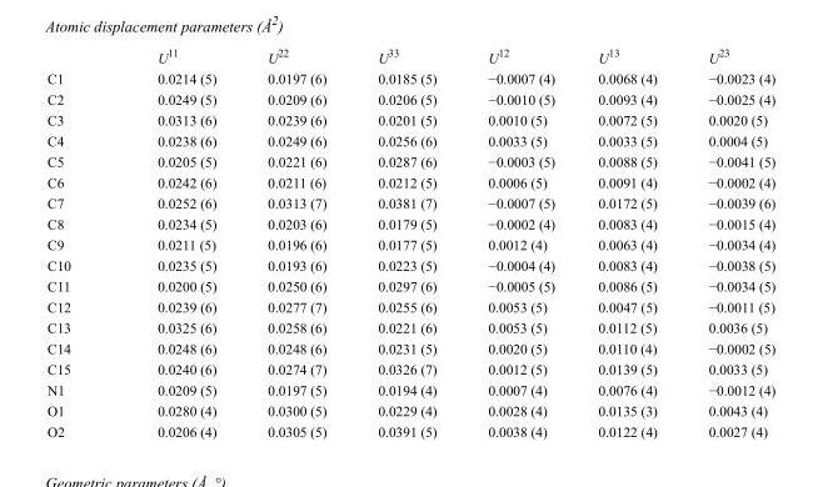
<table><thead><tr><td></td><td>U<sup>11</sup></td><td>U<sup>22</sup></td><td>U<sup>33</sup></td><td>U<sup>12</sup></td><td>U<sup>13</sup></td><td>U<sup>23</sup></td></tr></thead><tbody><tr><td>C1</td><td>0.0214 (5)</td><td>0.0197 (6)</td><td>0.0185 (5)</td><td>−0.0007 (4)</td><td>0.0068 (4)</td><td>−0.0023 (4)</td></tr><tr><td>C2</td><td>0.0249 (5)</td><td>0.0209 (6)</td><td>0.0206 (5)</td><td>−0.0010 (5)</td><td>0.0093 (4)</td><td>−0.0025 (4)</td></tr><tr><td>C3</td><td>0.0313 (6)</td><td>0.0239 (6)</td><td>0.0201 (5)</td><td>0.0010 (5)</td><td>0.0072 (5)</td><td>0.0020 (5)</td></tr><tr><td>C4</td><td>0.0238 (6)</td><td>0.0249 (6)</td><td>0.0256 (6)</td><td>0.0033 (5)</td><td>0.0033 (5)</td><td>0.0004 (5)</td></tr><tr><td>C5</td><td>0.0205 (5)</td><td>0.0221 (6)</td><td>0.0287 (6)</td><td>−0.0003 (5)</td><td>0.0088 (5)</td><td>−0.0041 (5)</td></tr><tr><td>C6</td><td>0.0242 (6)</td><td>0.0211 (6)</td><td>0.0212 (5)</td><td>0.0006 (5)</td><td>0.0091 (4)</td><td>−0.0002 (4)</td></tr><tr><td>C7</td><td>0.0252 (6)</td><td>0.0313 (7)</td><td>0.0381 (7)</td><td>−0.0007 (5)</td><td>0.0172 (5)</td><td>−0.0039 (6)</td></tr><tr><td>C8</td><td>0.0234 (5)</td><td>0.0203 (6)</td><td>0.0179 (5)</td><td>−0.0002 (4)</td><td>0.0083 (4)</td><td>−0.0015 (4)</td></tr><tr><td>C9</td><td>0.0211 (5)</td><td>0.0196 (6)</td><td>0.0177 (5)</td><td>0.0012 (4)</td><td>0.0063 (4)</td><td>−0.0034 (4)</td></tr><tr><td>C10</td><td>0.0235 (5)</td><td>0.0193 (6)</td><td>0.0223 (5)</td><td>−0.0004 (4)</td><td>0.0083 (4)</td><td>−0.0038 (5)</td></tr><tr><td>C11</td><td>0.0200 (5)</td><td>0.0250 (6)</td><td>0.0297 (6)</td><td>−0.0005 (5)</td><td>0.0086 (5)</td><td>−0.0034 (5)</td></tr><tr><td>C12</td><td>0.0239 (6)</td><td>0.0277 (7)</td><td>0.0255 (6)</td><td>0.0053 (5)</td><td>0.0047 (5)</td><td>−0.0011 (5)</td></tr><tr><td>C13</td><td>0.0325 (6)</td><td>0.0258 (6)</td><td>0.0221 (6)</td><td>0.0053 (5)</td><td>0.0112 (5)</td><td>0.0036 (5)</td></tr><tr><td>C14</td><td>0.0248 (6)</td><td>0.0248 (6)</td><td>0.0231 (5)</td><td>0.0020 (5)</td><td>0.0110 (4)</td><td>−0.0002 (5)</td></tr><tr><td>C15</td><td>0.0240 (6)</td><td>0.0274 (7)</td><td>0.0326 (7)</td><td>0.0012 (5)</td><td>0.0139 (5)</td><td>0.0033 (5)</td></tr><tr><td>N1</td><td>0.0209 (5)</td><td>0.0197 (5)</td><td>0.0194 (4)</td><td>0.0007 (4)</td><td>0.0076 (4)</td><td>−0.0012 (4)</td></tr><tr><td>O1</td><td>0.0280 (4)</td><td>0.0300 (5)</td><td>0.0229 (4)</td><td>0.0028 (4)</td><td>0.0135 (3)</td><td>0.0043 (4)</td></tr><tr><td>O2</td><td>0.0206 (4)</td><td>0.0305 (5)</td><td>0.0391 (5)</td><td>0.0038 (4)</td><td>0.0122 (4)</td><td>0.0027 (4)</td></tr></tbody></table>